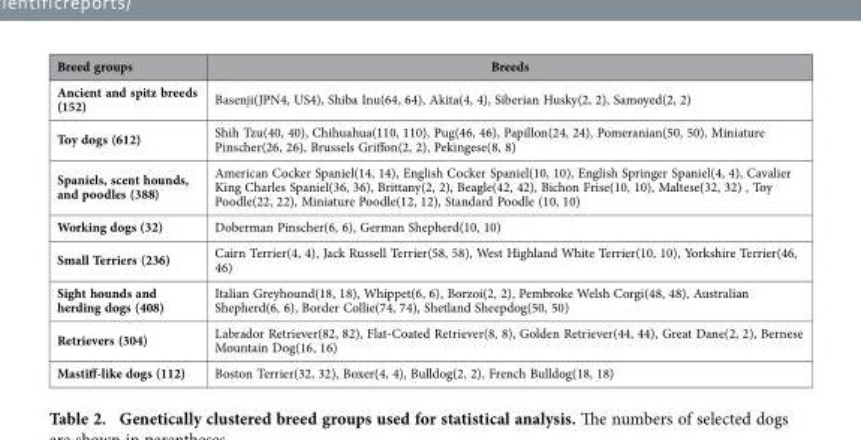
<table><thead><tr><td>Breed groups</td><td>Breeds</td></tr></thead><tbody><tr><td>Ancient and spitz breeds (152)</td><td>Basenji(JPN4, US4), Shiba Inu(64, 64), Akita(4, 4), Siberian Husky(2, 2), Samoyed(2, 2)</td></tr><tr><td>Toy dogs (612)</td><td>Shih Tzu(40, 40), Chihuahua(110, 110), Pug(46, 46), Papillon(24, 24), Pomeranian(50, 50), Miniature Pinscher(26, 26), Brussels Griffon(2, 2), Pekingese(8, 8)</td></tr><tr><td>Spaniels, scent hounds, and poodles (388)</td><td>American Cocker Spaniel(14, 14), English Cocker Spaniel(10, 10), English Springer Spaniel(4, 4), Cavalier King Charles Spaniel(36, 36), Brittany(2, 2), Beagle(42, 42), Bichon Frise(10, 10), Maltese(32, 32) , Toy Poodle(22, 22), Miniature Poodle(12, 12), Standard Poodle (10, 10)</td></tr><tr><td>Working dogs (32)</td><td>Doberman Pinscher(6, 6), German Shepherd(10, 10)</td></tr><tr><td>Small Terriers (236)</td><td>Cairn Terrier(4, 4), Jack Russell Terrier(58, 58), West Highland White Terrier(10, 10), Yorkshire Terrier(46, 46)</td></tr><tr><td>Sight hounds and herding dogs (408)</td><td>Italian Greyhound(18, 18), Whippet(6, 6), Borzoi(2, 2), Pembroke Welsh Corgi(48, 48), Australian Shepherd(6, 6), Border Collie(74, 74), Shetland Sheepdog(50, 50)</td></tr><tr><td>Retrievers (304)</td><td>Labrador Retriever(82, 82), Flat-Coated Retriever(8, 8), Golden Retriever(44, 44), Great Dane(2, 2), Bernese Mountain Dog(16, 16)</td></tr><tr><td>Mastiff-like dogs (112)</td><td>Boston Terrier(32, 32), Boxer(4, 4), Bulldog(2, 2), French Bulldog(18, 18)</td></tr></tbody></table>